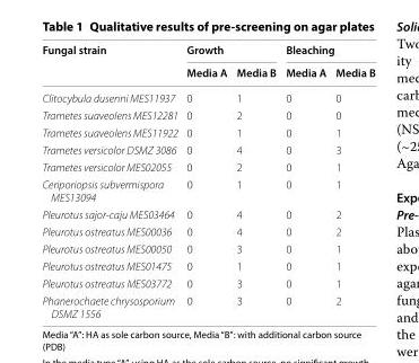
<table><thead><tr><td rowspan="2">Fungal strain</td><td colspan="2">Growth</td><td colspan="2">Bleaching</td></tr><tr><td>Media A</td><td>Media B</td><td>Media A</td><td>Media B</td></tr></thead><tbody><tr><td>Clitocybula dusenni MES11937</td><td>0</td><td>1</td><td>0</td><td>0</td></tr><tr><td>Trametes suaveolens MES12281</td><td>0</td><td>2</td><td>0</td><td>0</td></tr><tr><td>Trametes suaveolens MES11922</td><td>0</td><td>1</td><td>0</td><td>1</td></tr><tr><td>Trametes versicolor DSMZ 3086</td><td>0</td><td>4</td><td>0</td><td>3</td></tr><tr><td>Trametes versicolor MES02055</td><td>0</td><td>2</td><td>0</td><td>1</td></tr><tr><td>Ceriporiopsis subvermispora MES13094</td><td>0</td><td>1</td><td>0</td><td>1</td></tr><tr><td>Pleurotus sajor-caju MES03464</td><td>0</td><td>4</td><td>0</td><td>2</td></tr><tr><td>Pleurotus ostreatus MES00036</td><td>0</td><td>4</td><td>0</td><td>2</td></tr><tr><td>Pleurotus ostreatus MES00050</td><td>0</td><td>3</td><td>0</td><td>1</td></tr><tr><td>Pleurotus ostreatus MES01475</td><td>0</td><td>1</td><td>0</td><td>1</td></tr><tr><td>Pleurotus ostreatus MES03772</td><td>0</td><td>3</td><td>0</td><td>1</td></tr><tr><td>Phanerochaete chrysosporium DSMZ 1556</td><td>0</td><td>3</td><td>0</td><td>2</td></tr></tbody></table>